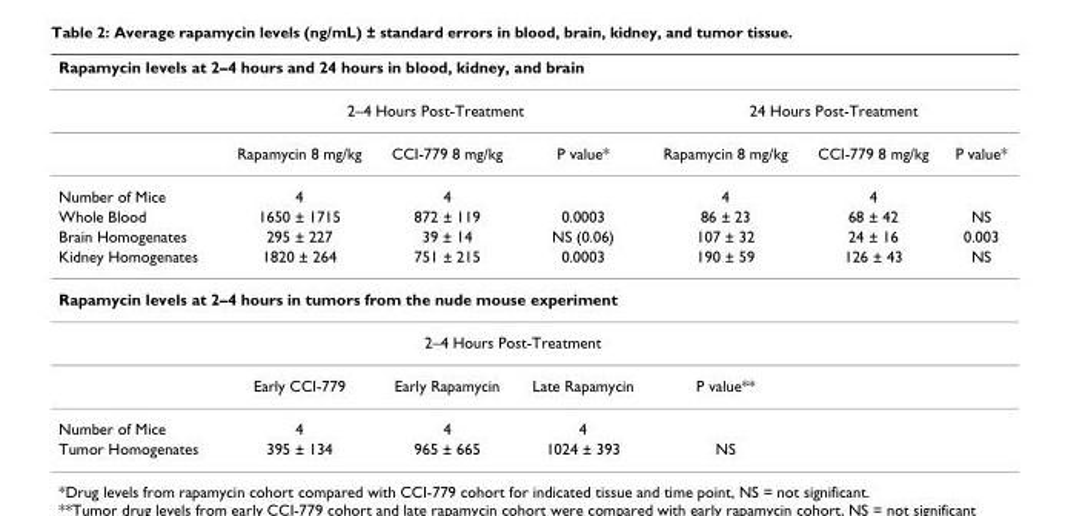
<table><thead><tr><td colspan="7">Rapamycin levels at 2–4 hours and 24 hours in blood, kidney, and brain</td></tr><tr><td rowspan="2"></td><td colspan="3">2–4 Hours Post-Treatment</td><td colspan="3">24 Hours Post-Treatment</td></tr><tr><td>Rapamycin 8 mg/kg</td><td>CCI-779 8 mg/kg</td><td>P value*</td><td>Rapamycin 8 mg/kg</td><td>CCI-779 8 mg/kg</td><td>P value*</td></tr></thead><tbody><tr><td>Number of Mice</td><td>4</td><td>4</td><td></td><td>4</td><td>4</td><td></td></tr><tr><td>Whole Blood</td><td>1650 ± 1715</td><td>872 ± 119</td><td>0.0003</td><td>86 ± 23</td><td>68 ± 42</td><td>NS</td></tr><tr><td>Brain Homogenates</td><td>295 ± 227</td><td>39 ± 14</td><td>NS (0.06)</td><td>107 ± 32</td><td>24 ± 16</td><td>0.003</td></tr><tr><td>Kidney Homogenates</td><td>1820 ± 264</td><td>751 ± 215</td><td>0.0003</td><td>190 ± 59</td><td>126 ± 43</td><td>NS</td></tr><tr><td colspan="7">Rapamycin levels at 2–4 hours in tumors from the nude mouse experiment</td></tr><tr><td></td><td colspan="4">2–4 Hours Post-Treatment</td><td></td><td></td></tr><tr><td></td><td>Early CCI-779</td><td>Early Rapamycin</td><td>Late Rapamycin</td><td>P value**</td><td></td><td></td></tr><tr><td>Number of Mice</td><td>4</td><td>4</td><td>4</td><td></td><td></td><td></td></tr><tr><td>Tumor Homogenates</td><td>395 ± 134</td><td>965 ± 665</td><td>1024 ± 393</td><td>NS</td><td></td><td></td></tr></tbody></table>